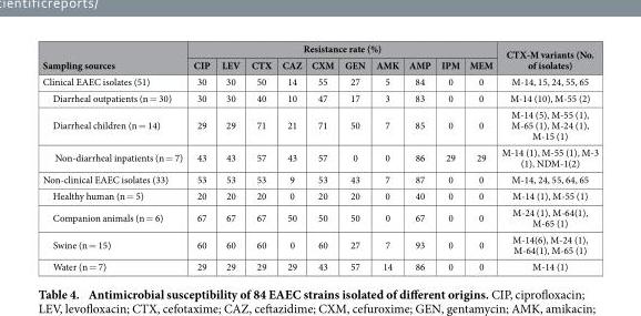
<table><thead><tr><td rowspan="2">Sampling sources</td><td colspan="10">Resistance rate (%)</td><td rowspan="2">CTX-M variants (No. of isolates)</td></tr><tr><td>CIP</td><td>LEV</td><td>CTX</td><td>CAZ</td><td>CXM</td><td>GEN</td><td>AMK</td><td>AMP</td><td>IPM</td><td>MEM</td></tr></thead><tbody><tr><td>Clinical EAEC isolates (51)</td><td>30</td><td>30</td><td>50</td><td>14</td><td>55</td><td>27</td><td>5</td><td>84</td><td>0</td><td>0</td><td>M-14, 15, 24, 55, 65</td></tr><tr><td>Diarrheal outpatients (n = 30)</td><td>30</td><td>30</td><td>40</td><td>10</td><td>47</td><td>17</td><td>3</td><td>83</td><td>0</td><td>0</td><td>M-14 (10), M-55 (2)</td></tr><tr><td>Diarrheal children (n = 14)</td><td>29</td><td>29</td><td>71</td><td>21</td><td>71</td><td>50</td><td>7</td><td>85</td><td>0</td><td>0</td><td>M-14 (5), M-55 (1), M-65 (1), M-24 (1), M-15 (1)</td></tr><tr><td>Non-diarrheal inpatients (n = 7)</td><td>43</td><td>43</td><td>57</td><td>43</td><td>57</td><td>0</td><td>0</td><td>86</td><td>29</td><td>29</td><td>M-14 (1), M-55 (1), M-3 (1), NDM-1(2)</td></tr><tr><td>Non-clinical EAEC isolates (33)</td><td>53</td><td>53</td><td>53</td><td>9</td><td>53</td><td>43</td><td>7</td><td>87</td><td>0</td><td>0</td><td>M-14, 24, 55, 64, 65</td></tr><tr><td>Healthy human (n = 5)</td><td>20</td><td>20</td><td>20</td><td>0</td><td>20</td><td>20</td><td>0</td><td>40</td><td>0</td><td>0</td><td>M-14 (1), M-55 (1)</td></tr><tr><td>Companion animals (n = 6)</td><td>67</td><td>67</td><td>67</td><td>50</td><td>50</td><td>50</td><td>0</td><td>67</td><td>0</td><td>0</td><td>M-24 (1), M-64(1), M-65 (1)</td></tr><tr><td>Swine (n = 15)</td><td>60</td><td>60</td><td>60</td><td>0</td><td>60</td><td>27</td><td>7</td><td>93</td><td>0</td><td>0</td><td>M-14(6), M-24 (1), M-64(1), M-65 (1)</td></tr><tr><td>Water (n = 7)</td><td>29</td><td>29</td><td>29</td><td>29</td><td>43</td><td>57</td><td>14</td><td>86</td><td>0</td><td>0</td><td>M-14 (1)</td></tr></tbody></table>